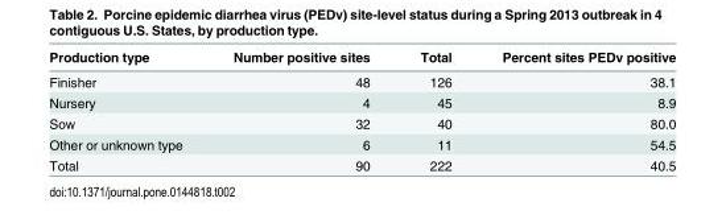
<table><thead><tr><td>Production type</td><td>Number positive sites</td><td>Total</td><td>Percent sites PEDv positive</td></tr></thead><tbody><tr><td>Finisher</td><td>48</td><td>126</td><td>38.1</td></tr><tr><td>Nursery</td><td>4</td><td>45</td><td>8.9</td></tr><tr><td>Sow</td><td>32</td><td>40</td><td>80.0</td></tr><tr><td>Other or unknown type</td><td>6</td><td>11</td><td>54.5</td></tr><tr><td>Total</td><td>90</td><td>222</td><td>40.5</td></tr></tbody></table>